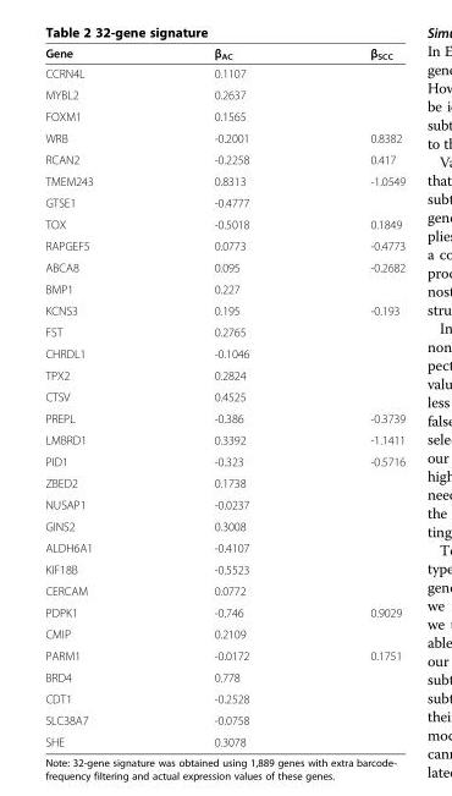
<table><thead><tr><td>Gene</td><td>β<sub>AC</sub></td><td>β<sub>SCC</sub></td></tr></thead><tbody><tr><td>CCRN4L</td><td>0.1107</td><td></td></tr><tr><td>MYBL2</td><td>0.2637</td><td></td></tr><tr><td>FOXM1</td><td>0.1565</td><td></td></tr><tr><td>WRB</td><td>-0.2001</td><td>0.8382</td></tr><tr><td>RCAN2</td><td>-0.2258</td><td>0.417</td></tr><tr><td>TMEM243</td><td>0.8313</td><td>-1.0549</td></tr><tr><td>GTSE1</td><td>-0.4777</td><td></td></tr><tr><td>TOX</td><td>-0.5018</td><td>0.1849</td></tr><tr><td>RAPGEF5</td><td>0.0773</td><td>-0.4773</td></tr><tr><td>ABCA8</td><td>0.095</td><td>-0.2682</td></tr><tr><td>BMP1</td><td>0.227</td><td></td></tr><tr><td>KCNS3</td><td>0.195</td><td>-0.193</td></tr><tr><td>FST</td><td>0.2765</td><td></td></tr><tr><td>CHRDL1</td><td>-0.1046</td><td></td></tr><tr><td>TPX2</td><td>0.2824</td><td></td></tr><tr><td>CTSV</td><td>0.4525</td><td></td></tr><tr><td>PREPL</td><td>-0.386</td><td>-0.3739</td></tr><tr><td>LMBRD1</td><td>0.3392</td><td>-1.1411</td></tr><tr><td>PID1</td><td>-0.323</td><td>-0.5716</td></tr><tr><td>ZBED2</td><td>0.1738</td><td></td></tr><tr><td>NUSAP1</td><td>-0.0237</td><td></td></tr><tr><td>GINS2</td><td>0.3008</td><td></td></tr><tr><td>ALDH6A1</td><td>-0.4107</td><td></td></tr><tr><td>KIF18B</td><td>-0.5523</td><td></td></tr><tr><td>CERCAM</td><td>0.0772</td><td></td></tr><tr><td>PDPK1</td><td>-0.746</td><td>0.9029</td></tr><tr><td>CMIP</td><td>0.2109</td><td></td></tr><tr><td>PARM1</td><td>-0.0172</td><td>0.1751</td></tr><tr><td>BRD4</td><td>0.778</td><td></td></tr><tr><td>CDT1</td><td>-0.2528</td><td></td></tr><tr><td>SLC38A7</td><td>-0.0758</td><td></td></tr><tr><td>SHE</td><td>0.3078</td><td></td></tr></tbody></table>